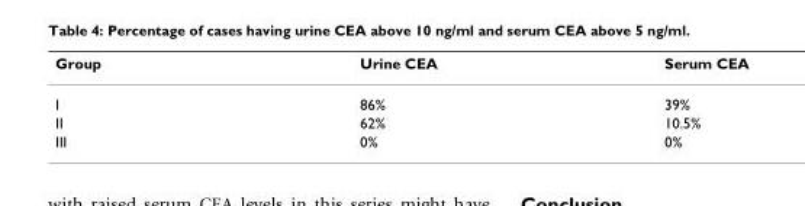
<table><thead><tr><td>Group</td><td>Urine CEA</td><td>Serum CEA</td></tr></thead><tbody><tr><td>I</td><td>86%</td><td>39%</td></tr><tr><td>II</td><td>62%</td><td>10.5%</td></tr><tr><td>III</td><td>0%</td><td>0%</td></tr></tbody></table>